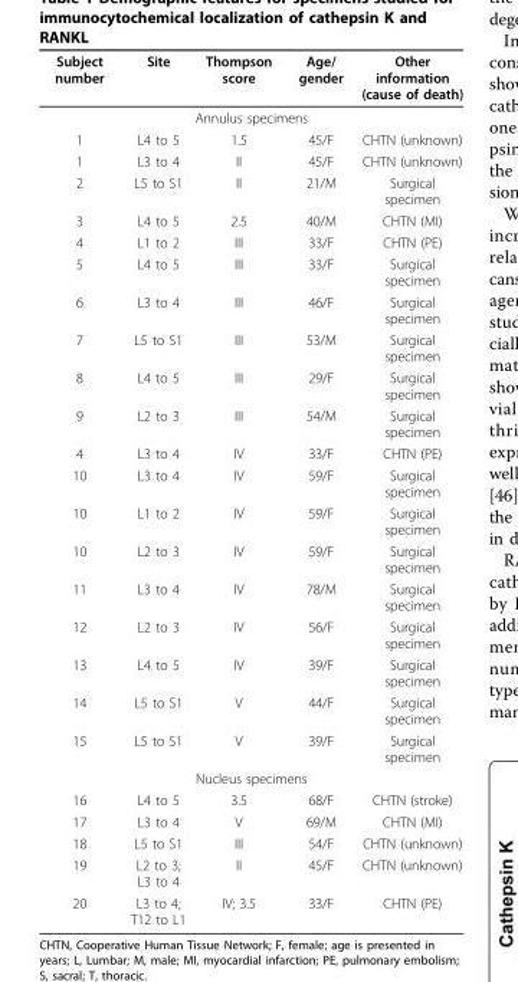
<table><thead><tr><td>Subject number</td><td>Site</td><td>Thompson score</td><td>Age/ gender</td><td>Other information (cause of death)</td></tr></thead><tbody><tr><td colspan="5">Annulus specimens</td></tr><tr><td>1</td><td>L4 to 5</td><td>1.5</td><td>45/F</td><td>CHTN (unknown)</td></tr><tr><td>1</td><td>L3 to 4</td><td>II</td><td>45/F</td><td>CHTN (unknown)</td></tr><tr><td>2</td><td>L5 to S1</td><td>II</td><td>21/M</td><td>Surgical specimen</td></tr><tr><td>3</td><td>L4 to 5</td><td>2.5</td><td>40/M</td><td>CHTN (MI)</td></tr><tr><td>4</td><td>L1 to 2</td><td>III</td><td>33/F</td><td>CHTN (PE)</td></tr><tr><td>5</td><td>L4 to 5</td><td>III</td><td>33/F</td><td>Surgical specimen</td></tr><tr><td>6</td><td>L3 to 4</td><td>III</td><td>46/F</td><td>Surgical specimen</td></tr><tr><td>7</td><td>L5 to S1</td><td>III</td><td>53/M</td><td>Surgical specimen</td></tr><tr><td>8</td><td>L4 to 5</td><td>III</td><td>29/F</td><td>Surgical specimen</td></tr><tr><td>9</td><td>L2 to 3</td><td>III</td><td>54/M</td><td>Surgical specimen</td></tr><tr><td>4</td><td>L3 to 4</td><td>IV</td><td>33/F</td><td>CHTN (PE)</td></tr><tr><td>10</td><td>L3 to 4</td><td>IV</td><td>59/F</td><td>Surgical specimen</td></tr><tr><td>10</td><td>L1 to 2</td><td>IV</td><td>59/F</td><td>Surgical specimen</td></tr><tr><td>10</td><td>L2 to 3</td><td>IV</td><td>59/F</td><td>Surgical specimen</td></tr><tr><td>11</td><td>L3 to 4</td><td>IV</td><td>78/M</td><td>Surgical specimen</td></tr><tr><td>12</td><td>L2 to 3</td><td>IV</td><td>56/F</td><td>Surgical specimen</td></tr><tr><td>13</td><td>L4 to 5</td><td>IV</td><td>39/F</td><td>Surgical specimen</td></tr><tr><td>14</td><td>L5 to S1</td><td>V</td><td>44/F</td><td>Surgical specimen</td></tr><tr><td>15</td><td>L5 to S1</td><td>V</td><td>39/F</td><td>Surgical specimen</td></tr><tr><td colspan="5">Nucleus specimens</td></tr><tr><td>16</td><td>L4 to 5</td><td>3.5</td><td>68/F</td><td>CHTN (stroke)</td></tr><tr><td>17</td><td>L3 to 4</td><td>V</td><td>69/M</td><td>CHTN (MI)</td></tr><tr><td>18</td><td>L5 to S1</td><td>III</td><td>54/F</td><td>CHTN (unknown)</td></tr><tr><td>19</td><td>L2 to 3; L3 to 4</td><td>II</td><td>45/F</td><td>CHTN (unknown)</td></tr><tr><td>20</td><td>L3 to 4; T12 to L1</td><td>IV; 3.5</td><td>33/F</td><td>CHTN (PE)</td></tr></tbody></table>